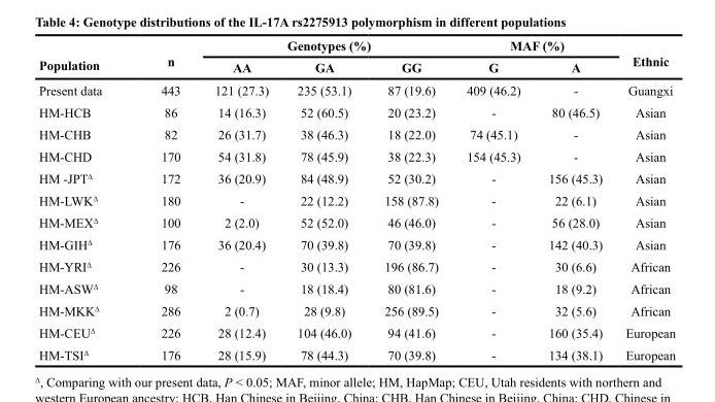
<table><thead><tr><td rowspan="2">Population</td><td rowspan="2">n</td><td colspan="3">Genotypes (%)</td><td colspan="2">MAF (%)</td><td rowspan="2">Ethnic</td></tr><tr><td>AA</td><td>GA</td><td>GG</td><td>G</td><td>A</td></tr></thead><tbody><tr><td>Present data</td><td>443</td><td>121 (27.3)</td><td>235 (53.1)</td><td>87 (19.6)</td><td>409 (46.2)</td><td>-</td><td>Guangxi</td></tr><tr><td>HM-HCB</td><td>86</td><td>14 (16.3)</td><td>52 (60.5)</td><td>20 (23.2)</td><td>-</td><td>80 (46.5)</td><td>Asian</td></tr><tr><td>HM-CHB</td><td>82</td><td>26 (31.7)</td><td>38 (46.3)</td><td>18 (22.0)</td><td>74 (45.1)</td><td>-</td><td>Asian</td></tr><tr><td>HM-CHD</td><td>170</td><td>54 (31.8)</td><td>78 (45.9)</td><td>38 (22.3)</td><td>154 (45.3)</td><td>-</td><td>Asian</td></tr><tr><td>HM -JPT<sup>Δ</sup></td><td>172</td><td>36 (20.9)</td><td>84 (48.9)</td><td>52 (30.2)</td><td>-</td><td>156 (45.3)</td><td>Asian</td></tr><tr><td>HM-LWK<sup>Δ</sup></td><td>180</td><td>-</td><td>22 (12.2)</td><td>158 (87.8)</td><td>-</td><td>22 (6.1)</td><td>Asian</td></tr><tr><td>HM-MEX<sup>Δ</sup></td><td>100</td><td>2 (2.0)</td><td>52 (52.0)</td><td>46 (46.0)</td><td>-</td><td>56 (28.0)</td><td>Asian</td></tr><tr><td>HM-GIH<sup>Δ</sup></td><td>176</td><td>36 (20.4)</td><td>70 (39.8)</td><td>70 (39.8)</td><td>-</td><td>142 (40.3)</td><td>Asian</td></tr><tr><td>HM-YRI<sup>Δ</sup></td><td>226</td><td>-</td><td>30 (13.3)</td><td>196 (86.7)</td><td>-</td><td>30 (6.6)</td><td>African</td></tr><tr><td>HM-ASW<sup>Δ</sup></td><td>98</td><td>-</td><td>18 (18.4)</td><td>80 (81.6)</td><td>-</td><td>18 (9.2)</td><td>African</td></tr><tr><td>HM-MKK<sup>Δ</sup></td><td>286</td><td>2 (0.7)</td><td>28 (9.8)</td><td>256 (89.5)</td><td>-</td><td>32 (5.6)</td><td>African</td></tr><tr><td>HM-CEU<sup>Δ</sup></td><td>226</td><td>28 (12.4)</td><td>104 (46.0)</td><td>94 (41.6)</td><td>-</td><td>160 (35.4)</td><td>European</td></tr><tr><td>HM-TSI<sup>Δ</sup></td><td>176</td><td>28 (15.9)</td><td>78 (44.3)</td><td>70 (39.8)</td><td>-</td><td>134 (38.1)</td><td>European</td></tr></tbody></table>